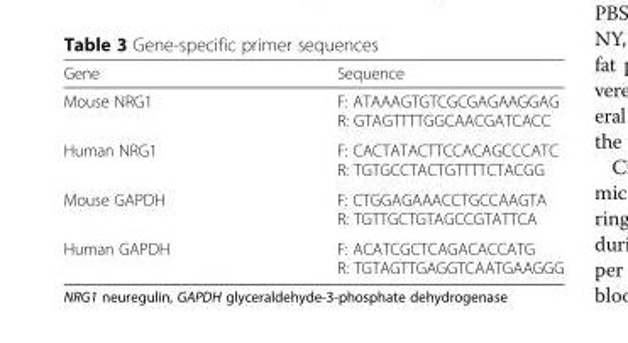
<table><thead><tr><td>Gene</td><td>Sequence</td></tr></thead><tbody><tr><td>Mouse NRG1</td><td>F: ATAAAGTGTCGCGAGAAGGAG R: GTAGTTTTGGCAACGATCACC</td></tr><tr><td>Human NRG1</td><td>F: CACTATACTTCCACAGCCCATC R: TGTGCCTACTGTTTTCTACGG</td></tr><tr><td>Mouse GAPDH</td><td>F: CTGGAGAAACCTGCCAAGTA R: TGTTGCTGTAGCCGTATTCA</td></tr><tr><td>Human GAPDH</td><td>F: ACATCGCTCAGACACCATG R: TGTAGTTGAGGTCAATGAAGGG</td></tr></tbody></table>